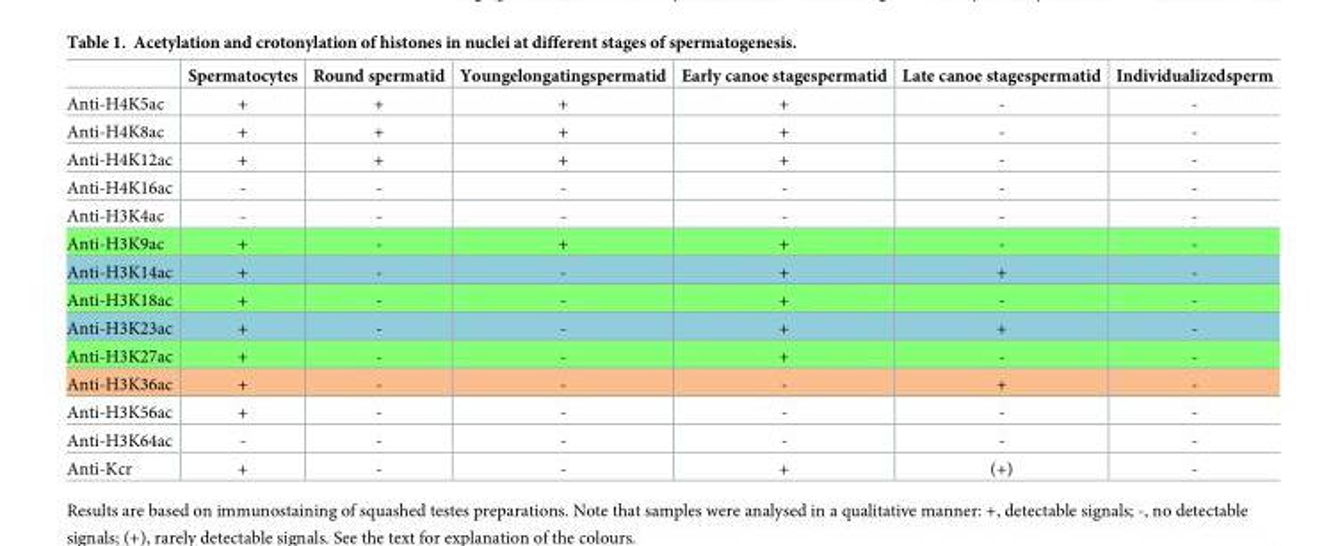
<table><thead><tr><td></td><td>Spermatocytes</td><td>Round spermatid</td><td>Youngelongatingspermatid</td><td>Early canoe stagespermatid</td><td>Late canoe stagespermatid</td><td>Individualizedsperm</td></tr></thead><tbody><tr><td>Anti-H4K5ac</td><td>+</td><td>+</td><td>+</td><td>+</td><td>-</td><td>-</td></tr><tr><td>Anti-H4K8ac</td><td>+</td><td>+</td><td>+</td><td>+</td><td>-</td><td>-</td></tr><tr><td>Anti-H4K12ac</td><td>+</td><td>+</td><td>+</td><td>+</td><td>-</td><td>-</td></tr><tr><td>Anti-H4K16ac</td><td>-</td><td>-</td><td>-</td><td>-</td><td>-</td><td>-</td></tr><tr><td>Anti-H3K4ac</td><td>-</td><td>-</td><td>-</td><td>-</td><td>-</td><td>-</td></tr><tr><td>Anti-H3K9ac</td><td>+</td><td>-</td><td>+</td><td>+</td><td>-</td><td>-</td></tr><tr><td>Anti-H3K14ac</td><td>+</td><td>-</td><td>-</td><td>+</td><td>+</td><td>-</td></tr><tr><td>Anti-H3K18ac</td><td>+</td><td>-</td><td>-</td><td>+</td><td>-</td><td>-</td></tr><tr><td>Anti-H3K23ac</td><td>+</td><td>-</td><td>-</td><td>+</td><td>+</td><td>-</td></tr><tr><td>Anti-H3K27ac</td><td>+</td><td>-</td><td>-</td><td>+</td><td>-</td><td>-</td></tr><tr><td>Anti-H3K36ac</td><td>+</td><td>-</td><td>-</td><td>-</td><td>+</td><td>-</td></tr><tr><td>Anti-H3K56ac</td><td>+</td><td>-</td><td>-</td><td>-</td><td>-</td><td>-</td></tr><tr><td>Anti-H3K64ac</td><td>-</td><td>-</td><td>-</td><td>-</td><td>-</td><td>-</td></tr><tr><td>Anti-Kcr</td><td>+</td><td>-</td><td>-</td><td>+</td><td>(+)</td><td>-</td></tr></tbody></table>